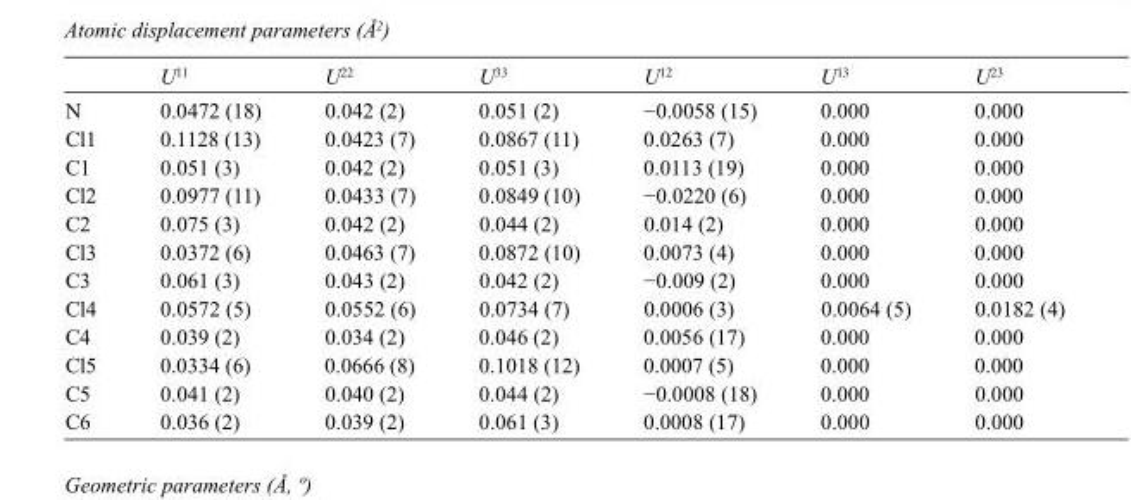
<table><thead><tr><td></td><td>U<sup>11</sup></td><td>U<sup>22</sup></td><td>U<sup>33</sup></td><td>U<sup>12</sup></td><td>U<sup>13</sup></td><td>U<sup>23</sup></td></tr></thead><tbody><tr><td>N</td><td>0.0472 (18)</td><td>0.042 (2)</td><td>0.051 (2)</td><td>−0.0058 (15)</td><td>0.000</td><td>0.000</td></tr><tr><td>Cl1</td><td>0.1128 (13)</td><td>0.0423 (7)</td><td>0.0867 (11)</td><td>0.0263 (7)</td><td>0.000</td><td>0.000</td></tr><tr><td>C1</td><td>0.051 (3)</td><td>0.042 (2)</td><td>0.051 (3)</td><td>0.0113 (19)</td><td>0.000</td><td>0.000</td></tr><tr><td>Cl2</td><td>0.0977 (11)</td><td>0.0433 (7)</td><td>0.0849 (10)</td><td>−0.0220 (6)</td><td>0.000</td><td>0.000</td></tr><tr><td>C2</td><td>0.075 (3)</td><td>0.042 (2)</td><td>0.044 (2)</td><td>0.014 (2)</td><td>0.000</td><td>0.000</td></tr><tr><td>Cl3</td><td>0.0372 (6)</td><td>0.0463 (7)</td><td>0.0872 (10)</td><td>0.0073 (4)</td><td>0.000</td><td>0.000</td></tr><tr><td>C3</td><td>0.061 (3)</td><td>0.043 (2)</td><td>0.042 (2)</td><td>−0.009 (2)</td><td>0.000</td><td>0.000</td></tr><tr><td>Cl4</td><td>0.0572 (5)</td><td>0.0552 (6)</td><td>0.0734 (7)</td><td>0.0006 (3)</td><td>0.0064 (5)</td><td>0.0182 (4)</td></tr><tr><td>C4</td><td>0.039 (2)</td><td>0.034 (2)</td><td>0.046 (2)</td><td>0.0056 (17)</td><td>0.000</td><td>0.000</td></tr><tr><td>Cl5</td><td>0.0334 (6)</td><td>0.0666 (8)</td><td>0.1018 (12)</td><td>0.0007 (5)</td><td>0.000</td><td>0.000</td></tr><tr><td>C5</td><td>0.041 (2)</td><td>0.040 (2)</td><td>0.044 (2)</td><td>−0.0008 (18)</td><td>0.000</td><td>0.000</td></tr><tr><td>C6</td><td>0.036 (2)</td><td>0.039 (2)</td><td>0.061 (3)</td><td>0.0008 (17)</td><td>0.000</td><td>0.000</td></tr></tbody></table>